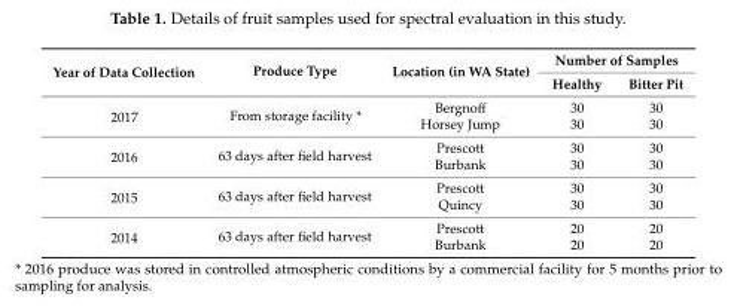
<table><thead><tr><td rowspan="2">Year of Data Collection</td><td rowspan="2">Produce Type</td><td rowspan="2">Location (in WA State)</td><td colspan="2">Number of Samples</td></tr><tr><td>Healthy</td><td>Bitter Pit</td></tr></thead><tbody><tr><td rowspan="2">2017</td><td rowspan="2">From storage facility *</td><td>Bergnoff</td><td>30</td><td>30</td></tr><tr><td>Horsey Jump</td><td>30</td><td>30</td></tr><tr><td rowspan="2">2016</td><td rowspan="2">63 days after field harvest</td><td>Prescott</td><td>30</td><td>30</td></tr><tr><td>Burbank</td><td>30</td><td>30</td></tr><tr><td rowspan="2">2015</td><td rowspan="2">63 days after field harvest</td><td>Prescott</td><td>30</td><td>30</td></tr><tr><td>Quincy</td><td>30</td><td>30</td></tr><tr><td rowspan="2">2014</td><td rowspan="2">63 days after field harvest</td><td>Prescott</td><td>20</td><td>20</td></tr><tr><td>Burbank</td><td>20</td><td>20</td></tr></tbody></table>